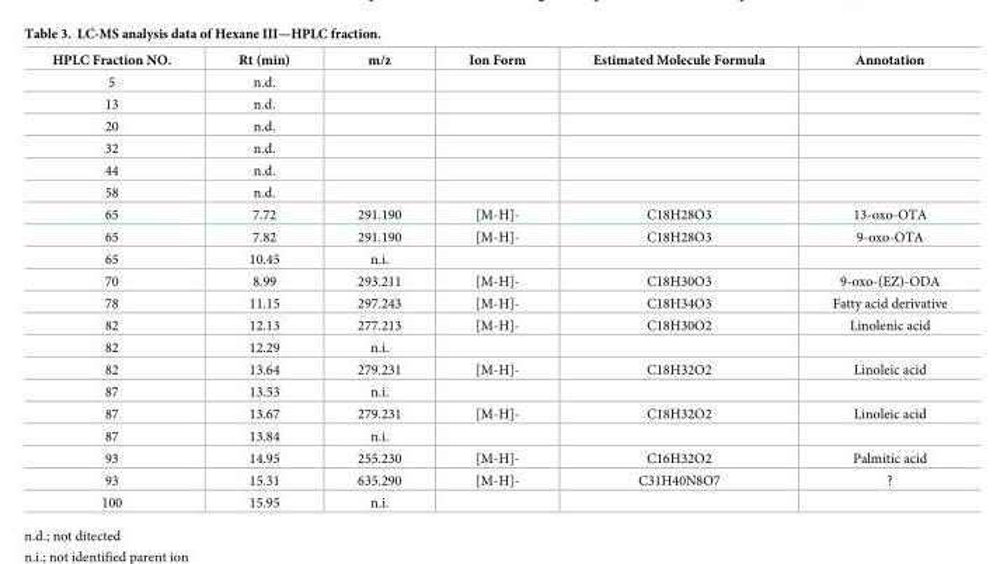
<table><thead><tr><td>HPLC Fraction NO.</td><td>Rt (min)</td><td>m/z</td><td>Ion Form</td><td>Estimated Molecule Formula</td><td>Annotation</td></tr></thead><tbody><tr><td>5</td><td>n.d.</td><td></td><td></td><td></td><td></td></tr><tr><td>13</td><td>n.d.</td><td></td><td></td><td></td><td></td></tr><tr><td>20</td><td>n.d.</td><td></td><td></td><td></td><td></td></tr><tr><td>32</td><td>n.d.</td><td></td><td></td><td></td><td></td></tr><tr><td>44</td><td>n.d.</td><td></td><td></td><td></td><td></td></tr><tr><td>58</td><td>n.d.</td><td></td><td></td><td></td><td></td></tr><tr><td>65</td><td>7.72</td><td>291.190</td><td>[M-H]-</td><td>C18H28O3</td><td>13-oxo-OTA</td></tr><tr><td>65</td><td>7.82</td><td>291.190</td><td>[M-H]-</td><td>C18H28O3</td><td>9-oxo-OTA</td></tr><tr><td>65</td><td>10.45</td><td>n.i.</td><td></td><td></td><td></td></tr><tr><td>70</td><td>8.99</td><td>293.211</td><td>[M-H]-</td><td>C18H30O3</td><td>9-oxo-(EZ)-ODA</td></tr><tr><td>78</td><td>11.15</td><td>297.243</td><td>[M-H]-</td><td>C18H34O3</td><td>Fatty acid derivative</td></tr><tr><td>82</td><td>12.13</td><td>277.213</td><td>[M-H]-</td><td>C18H30O2</td><td>Linolenic acid</td></tr><tr><td>82</td><td>12.29</td><td>n.i.</td><td></td><td></td><td></td></tr><tr><td>82</td><td>13.64</td><td>279.231</td><td>[M-H]-</td><td>C18H32O2</td><td>Linoleic acid</td></tr><tr><td>87</td><td>13.53</td><td>n.i.</td><td></td><td></td><td></td></tr><tr><td>87</td><td>13.67</td><td>279.231</td><td>[M-H]-</td><td>C18H32O2</td><td>Linoleic acid</td></tr><tr><td>87</td><td>13.84</td><td>n.i.</td><td></td><td></td><td></td></tr><tr><td>93</td><td>14.95</td><td>255.230</td><td>[M-H]-</td><td>C16H32O2</td><td>Palmitic acid</td></tr><tr><td>93</td><td>15.31</td><td>635.290</td><td>[M-H]-</td><td>C31H40N8O7</td><td>?</td></tr><tr><td>100</td><td>15.95</td><td>n.i.</td><td></td><td></td><td></td></tr></tbody></table>